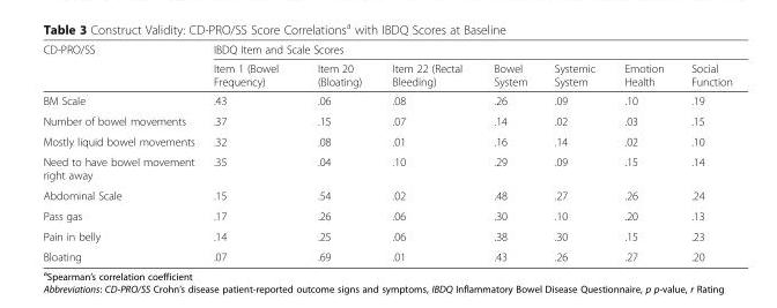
<table><thead><tr><td rowspan="2">CD-PRO/SS</td><td colspan="7">IBDQ Item and Scale Scores</td></tr><tr><td>Item 1 (Bowel Frequency)</td><td>Item 20 (Bloating)</td><td>Item 22 (Rectal Bleeding)</td><td>Bowel System</td><td>Systemic System</td><td>Emotion Health</td><td>Social Function</td></tr></thead><tbody><tr><td>BM Scale</td><td>.43</td><td>.06</td><td>.08</td><td>.26</td><td>.09</td><td>.10</td><td>.19</td></tr><tr><td>Number of bowel movements</td><td>.37</td><td>.15</td><td>.07</td><td>.14</td><td>.02</td><td>.03</td><td>.15</td></tr><tr><td>Mostly liquid bowel movements</td><td>.32</td><td>.08</td><td>.01</td><td>.16</td><td>.14</td><td>.02</td><td>.10</td></tr><tr><td>Need to have bowel movement right away</td><td>.35</td><td>.04</td><td>.10</td><td>.29</td><td>.09</td><td>.15</td><td>.14</td></tr><tr><td>Abdominal Scale</td><td>.15</td><td>.54</td><td>.02</td><td>.48</td><td>.27</td><td>.26</td><td>.24</td></tr><tr><td>Pass gas</td><td>.17</td><td>.26</td><td>.06</td><td>.30</td><td>.10</td><td>.20</td><td>.13</td></tr><tr><td>Pain in belly</td><td>.14</td><td>.25</td><td>.06</td><td>.38</td><td>.30</td><td>.15</td><td>.23</td></tr><tr><td>Bloating</td><td>.07</td><td>.69</td><td>.01</td><td>.43</td><td>.26</td><td>.27</td><td>.20</td></tr></tbody></table>